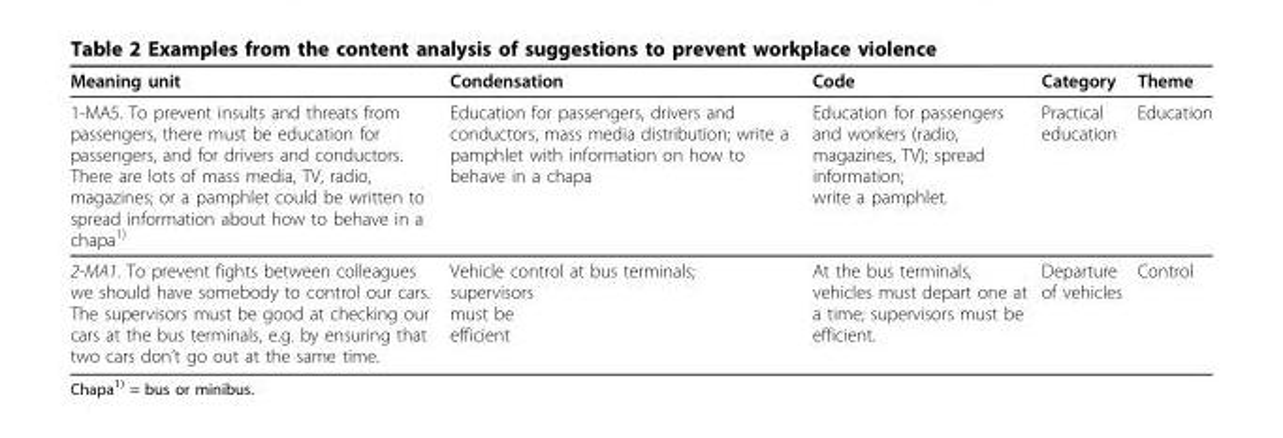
<table><thead><tr><td>Meaning unit</td><td>Condensation</td><td>Code</td><td>Category</td><td>Theme</td></tr></thead><tbody><tr><td>1-MA5. To prevent insults and threats from passengers, there must be education for passengers, and for drivers and conductors. There are lots of mass media, TV, radio, magazines; or a pamphlet could be written to spread information about how to behave in a chapa<sup>1)</sup></td><td>Education for passengers, drivers and conductors, mass media distribution; write a pamphlet with information on how to behave in a chapa</td><td>Education for passengers and workers (radio, magazines, TV); spread information; write a pamphlet.</td><td>Practical education</td><td>Education</td></tr><tr><td>2-MA1. To prevent fights between colleagues we should have somebody to control our cars. The supervisors must be good at checking our cars at the bus terminals, e.g. by ensuring that two cars don’t go out at the same time.</td><td>Vehicle control at bus terminals; supervisors must be efficient</td><td>At the bus terminals, vehicles must depart one at a time; supervisors must be efficient.</td><td>Departure of vehicles</td><td>Control</td></tr></tbody></table>